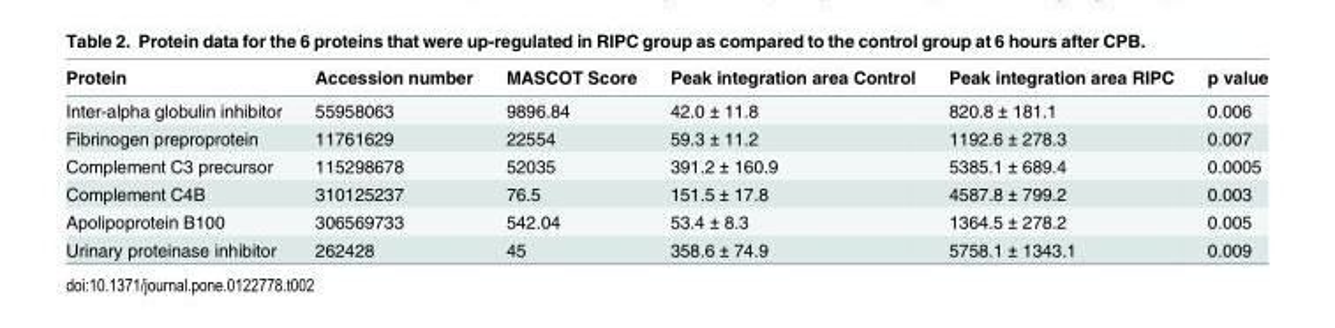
<table><thead><tr><td>Protein</td><td>Accession number</td><td>MASCOT Score</td><td>Peak integration area Control</td><td>Peak integration area RIPC</td><td>p value</td></tr></thead><tbody><tr><td>Inter-alpha globulin inhibitor</td><td>55958063</td><td>9896.84</td><td>42.0 ± 11.8</td><td>820.8 ± 181.1</td><td>0.006</td></tr><tr><td>Fibrinogen preproprotein</td><td>11761629</td><td>22554</td><td>59.3 ± 11.2</td><td>1192.6 ± 278.3</td><td>0.007</td></tr><tr><td>Complement C3 precursor</td><td>115298678</td><td>52035</td><td>391.2 ± 160.9</td><td>5385.1 ± 689.4</td><td>0.0005</td></tr><tr><td>Complement C4B</td><td>310125237</td><td>76.5</td><td>151.5 ± 17.8</td><td>4587.8 ± 799.2</td><td>0.003</td></tr><tr><td>Apolipoprotein B100</td><td>306569733</td><td>542.04</td><td>53.4 ± 8.3</td><td>1364.5 ± 278.2</td><td>0.005</td></tr><tr><td>Urinary proteinase inhibitor</td><td>262428</td><td>45</td><td>358.6 ± 74.9</td><td>5758.1 ± 1343.1</td><td>0.009</td></tr></tbody></table>